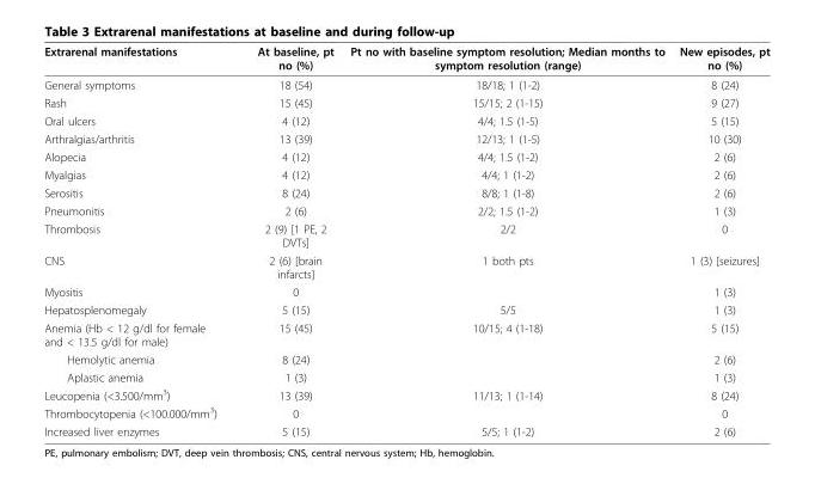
<table><thead><tr><td>Extrarenal manifestations</td><td>At baseline, pt no (%)</td><td>Pt no with baseline symptom resolution; Median months to symptom resolution (range)</td><td>New episodes, pt no (%)</td></tr></thead><tbody><tr><td>General symptoms</td><td>18 (54)</td><td>18/18; 1 (1-2)</td><td>8 (24)</td></tr><tr><td>Rash</td><td>15 (45)</td><td>15/15; 2 (1-15)</td><td>9 (27)</td></tr><tr><td>Oral ulcers</td><td>4 (12)</td><td>4/4; 1.5 (1-5)</td><td>5 (15)</td></tr><tr><td>Arthralgias/arthritis</td><td>13 (39)</td><td>12/13; 1 (1-5)</td><td>10 (30)</td></tr><tr><td>Alopecia</td><td>4 (12)</td><td>4/4; 1.5 (1-2)</td><td>2 (6)</td></tr><tr><td>Myalgias</td><td>4 (12)</td><td>4/4; 1 (1-2)</td><td>2 (6)</td></tr><tr><td>Serositis</td><td>8 (24)</td><td>8/8; 1 (1-8)</td><td>2 (6)</td></tr><tr><td>Pneumonitis</td><td>2 (6)</td><td>2/2; 1.5 (1-2)</td><td>1 (3)</td></tr><tr><td>Thrombosis</td><td>2 (9) [1 PE, 2 DVTs]</td><td>2/2</td><td>0</td></tr><tr><td>CNS</td><td>2 (6) [brain infarcts]</td><td>1 both pts</td><td>1 (3) [seizures]</td></tr><tr><td>Myositis</td><td>0</td><td></td><td>1 (3)</td></tr><tr><td>Hepatosplenomegaly</td><td>5 (15)</td><td>5/5</td><td>1 (3)</td></tr><tr><td>Anemia (Hb &lt; 12 g/dl for female and &lt; 13.5 g/dl for male)</td><td>15 (45)</td><td>10/15; 4 (1-18)</td><td>5 (15)</td></tr><tr><td>Hemolytic anemia</td><td>8 (24)</td><td></td><td>2 (6)</td></tr><tr><td>Aplastic anemia</td><td>1 (3)</td><td></td><td>1 (3)</td></tr><tr><td>Leucopenia (&lt;3.500/mm<sup>3</sup>)</td><td>13 (39)</td><td>11/13; 1 (1-14)</td><td>8 (24)</td></tr><tr><td>Thrombocytopenia (&lt;100.000/mm<sup>3</sup>)</td><td>0</td><td></td><td>0</td></tr><tr><td>Increased liver enzymes</td><td>5 (15)</td><td>5/5; 1 (1-2)</td><td>2 (6)</td></tr></tbody></table>